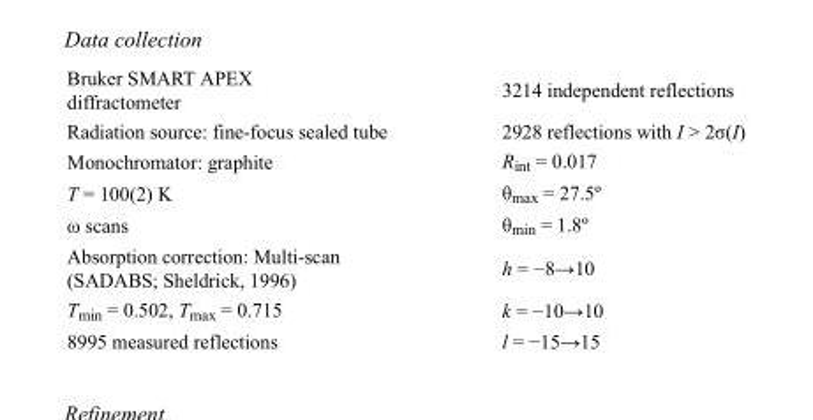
<table><tbody><tr><td>Bruker SMART APEX diffractometer</td><td>3214 independent reflections</td></tr><tr><td>Radiation source: fine-focus sealed tube</td><td>2928 reflections with I &gt; 2σ(I)</td></tr><tr><td>Monochromator: graphite</td><td>R<sub>int</sub> = 0.017</td></tr><tr><td>T = 100(2) K</td><td>θ<sub>max</sub> = 27.5º</td></tr><tr><td>ω scans</td><td>θ<sub>min</sub> = 1.8º</td></tr><tr><td>Absorption correction: Multi-scan (SADABS; Sheldrick, 1996)</td><td>h = −8→10</td></tr><tr><td>T<sub>min</sub> = 0.502, T<sub>max</sub> = 0.715</td><td>k = −10→10</td></tr><tr><td>8995 measured reflections</td><td>l = −15→15</td></tr></tbody></table>